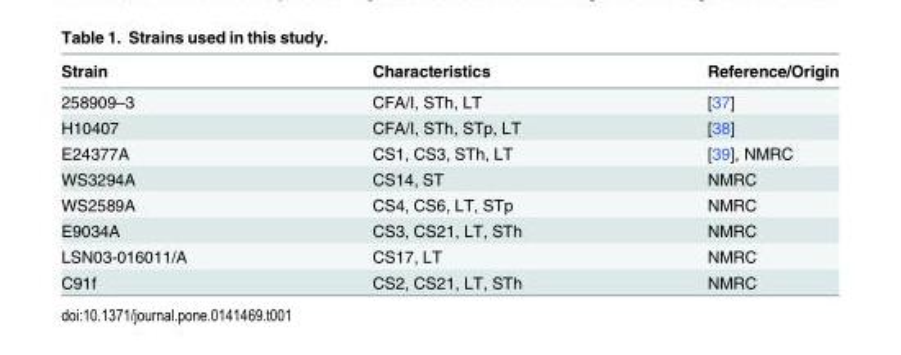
<table><thead><tr><td>Strain</td><td>Characteristics</td><td>Reference/Origin</td></tr></thead><tbody><tr><td>258909–3</td><td>CFA/I, STh, LT</td><td>[37]</td></tr><tr><td>H10407</td><td>CFA/I, STh, STp, LT</td><td>[38]</td></tr><tr><td>E24377A</td><td>CS1, CS3, STh, LT</td><td>[39], NMRC</td></tr><tr><td>WS3294A</td><td>CS14, ST</td><td>NMRC</td></tr><tr><td>WS2589A</td><td>CS4, CS6, LT, STp</td><td>NMRC</td></tr><tr><td>E9034A</td><td>CS3, CS21, LT, STh</td><td>NMRC</td></tr><tr><td>LSN03-016011/A</td><td>CS17, LT</td><td>NMRC</td></tr><tr><td>C91f</td><td>CS2, CS21, LT, STh</td><td>NMRC</td></tr></tbody></table>